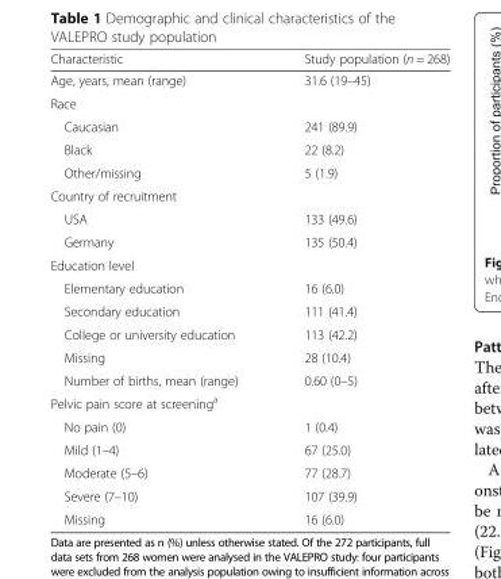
<table><thead><tr><td>Characteristic</td><td>Study population (n = 268)</td></tr></thead><tbody><tr><td>Age, years, mean (range)</td><td>31.6 (19–45)</td></tr><tr><td colspan="2">Race</td></tr><tr><td>Caucasian</td><td>241 (89.9)</td></tr><tr><td>Black</td><td>22 (8.2)</td></tr><tr><td>Other/missing</td><td>5 (1.9)</td></tr><tr><td colspan="2">Country of recruitment</td></tr><tr><td>USA</td><td>133 (49.6)</td></tr><tr><td>Germany</td><td>135 (50.4)</td></tr><tr><td colspan="2">Education level</td></tr><tr><td>Elementary education</td><td>16 (6.0)</td></tr><tr><td>Secondary education</td><td>111 (41.4)</td></tr><tr><td>College or university education</td><td>113 (42.2)</td></tr><tr><td>Missing</td><td>28 (10.4)</td></tr><tr><td>Number of births, mean (range)</td><td>0.60 (0–5)</td></tr><tr><td colspan="2">Pelvic pain score at screening<sup>a</sup></td></tr><tr><td>No pain (0)</td><td>1 (0.4)</td></tr><tr><td>Mild (1–4)</td><td>67 (25.0)</td></tr><tr><td>Moderate (5–6)</td><td>77 (28.7)</td></tr><tr><td>Severe (7–10)</td><td>107 (39.9)</td></tr><tr><td>Missing</td><td>16 (6.0)</td></tr></tbody></table>